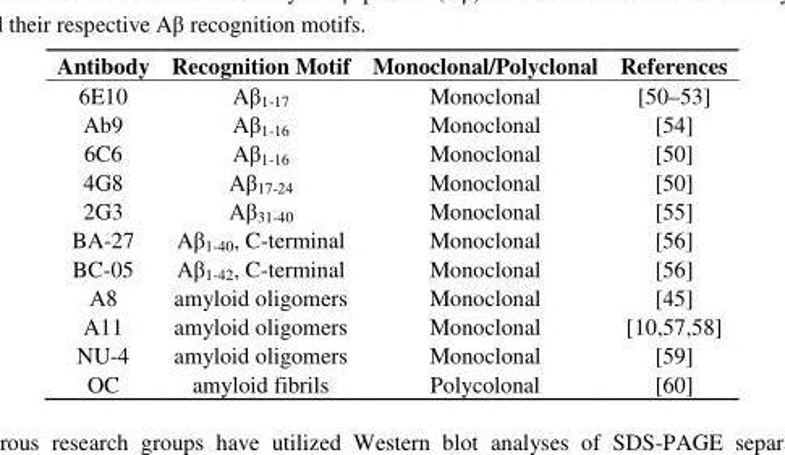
<table><thead><tr><td>Antibody</td><td>Recognition Motif</td><td>Monoclonal/Polyclonal</td><td>References</td></tr></thead><tbody><tr><td>6E10</td><td>Aβ<sub>1-17</sub></td><td>Monoclonal</td><td>[50–53]</td></tr><tr><td>Ab9</td><td>Aβ<sub>1-16</sub></td><td>Monoclonal</td><td>[54]</td></tr><tr><td>6C6</td><td>Aβ<sub>1-16</sub></td><td>Monoclonal</td><td>[50]</td></tr><tr><td>4G8</td><td>Aβ<sub>17-24</sub></td><td>Monoclonal</td><td>[50]</td></tr><tr><td>2G3</td><td>Aβ<sub>31-40</sub></td><td>Monoclonal</td><td>[55]</td></tr><tr><td>BA-27</td><td>Aβ<sub>1-40</sub>, C-terminal</td><td>Monoclonal</td><td>[56]</td></tr><tr><td>BC-05</td><td>Aβ<sub>1-42</sub>, C-terminal</td><td>Monoclonal</td><td>[56]</td></tr><tr><td>A8</td><td>amyloid oligomers</td><td>Monoclonal</td><td>[45]</td></tr><tr><td>A11</td><td>amyloid oligomers</td><td>Monoclonal</td><td>[10,57,58]</td></tr><tr><td>NU-4</td><td>amyloid oligomers</td><td>Monoclonal</td><td>[59]</td></tr><tr><td>OC</td><td>amyloid fibrils</td><td>Polycolonal</td><td>[60]</td></tr></tbody></table>